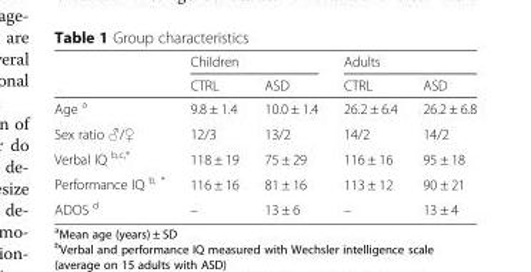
<table><thead><tr><td rowspan="2"></td><td colspan="2">Children</td><td colspan="2">Adults</td></tr><tr><td>CTRL</td><td>ASD</td><td>CTRL</td><td>ASD</td></tr></thead><tbody><tr><td>Age <sup>a</sup></td><td>9.8 ± 1.4</td><td>10.0 ± 1.4</td><td>26.2 ± 6.4</td><td>26.2 ± 6.8</td></tr><tr><td>Sex ratio ♂/♀</td><td>12/3</td><td>13/2</td><td>14/2</td><td>14/2</td></tr><tr><td>Verbal IQ <sup>b,c,*</sup></td><td>118 ± 19</td><td>75 ± 29</td><td>116 ± 16</td><td>95 ± 18</td></tr><tr><td>Performance IQ <sup>b, *</sup></td><td>116 ± 16</td><td>81 ± 16</td><td>113 ± 12</td><td>90 ± 21</td></tr><tr><td>ADOS <sup>d</sup></td><td>–</td><td>13 ± 6</td><td>–</td><td>13 ± 4</td></tr></tbody></table>